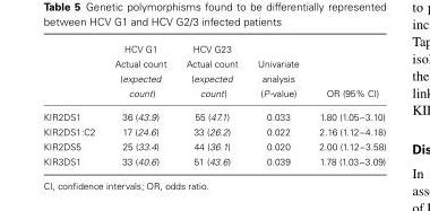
<table><thead><tr><td></td><td>HCV G1 Actual count (expected count)</td><td>HCV G23 Actual count (expected count)</td><td>Univariate analysis (P-value)</td><td>OR (95% CI)</td></tr></thead><tbody><tr><td>KIR2DS1</td><td>36 (43.9)</td><td>55 (47.1)</td><td>0.033</td><td>1.80 (1.05–3.10)</td></tr><tr><td>KIR2DS1:C2</td><td>17 (24.6)</td><td>33 (26.2)</td><td>0.022</td><td>2.16 (1.12–4.18)</td></tr><tr><td>KIR2DS5</td><td>25 (33.4)</td><td>44 (36.1)</td><td>0.020</td><td>2.00 (1.12–3.58)</td></tr><tr><td>KIR3DS1</td><td>33 (40.6)</td><td>51 (43.6)</td><td>0.039</td><td>1.78 (1.03–3.09)</td></tr></tbody></table>